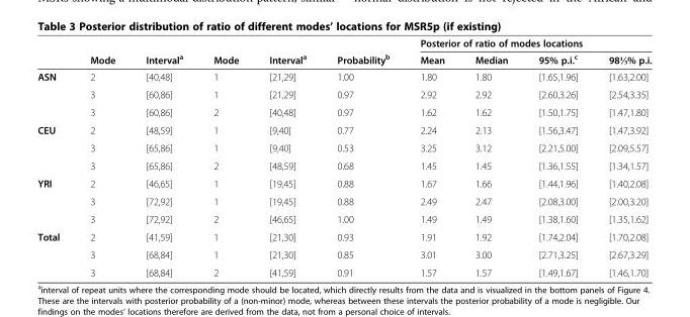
<table><thead><tr><td rowspan="2"></td><td rowspan="2">Mode</td><td rowspan="2">Interval<sup>a</sup></td><td rowspan="2">Mode</td><td rowspan="2">Interval<sup>a</sup></td><td rowspan="2">Probability<sup>b</sup></td><td colspan="4">Posterior of ratio of modes locations</td></tr><tr><td>Mean</td><td>Median</td><td>95% p.i.<sup>c</sup></td><td>98⅓% p.i.</td></tr></thead><tbody><tr><td rowspan="3">ASN</td><td>2</td><td>[40,48]</td><td>1</td><td>[21,29]</td><td>1.00</td><td>1.80</td><td>1.80</td><td>[1.65,1.96]</td><td>[1.63,2.00]</td></tr><tr><td>3</td><td>[60,86]</td><td>1</td><td>[21,29]</td><td>0.97</td><td>2.92</td><td>2.92</td><td>[2.60,3.26]</td><td>[2.54,3.35]</td></tr><tr><td>3</td><td>[60,86]</td><td>2</td><td>[40,48]</td><td>0.97</td><td>1.62</td><td>1.62</td><td>[1.50,1.75]</td><td>[1.47,1.80]</td></tr><tr><td rowspan="3">CEU</td><td>2</td><td>[48,59]</td><td>1</td><td>[9,40]</td><td>0.77</td><td>2.24</td><td>2.13</td><td>[1.56,3.47]</td><td>[1.47,3.92]</td></tr><tr><td>3</td><td>[65,86]</td><td>1</td><td>[9,40]</td><td>0.53</td><td>3.25</td><td>3.12</td><td>[2.21,5.00]</td><td>[2.09,5.57]</td></tr><tr><td>3</td><td>[65,86]</td><td>2</td><td>[48,59]</td><td>0.68</td><td>1.45</td><td>1.45</td><td>[1.36,1.55]</td><td>[1.34,1.57]</td></tr><tr><td rowspan="3">YRI</td><td>2</td><td>[46,65]</td><td>1</td><td>[19,45]</td><td>0.88</td><td>1.67</td><td>1.66</td><td>[1.44,1.96]</td><td>[1.40,2.08]</td></tr><tr><td>3</td><td>[72,92]</td><td>1</td><td>[19,45]</td><td>0.88</td><td>2.49</td><td>2.47</td><td>[2.08,3.00]</td><td>[2.00,3.20]</td></tr><tr><td>3</td><td>[72,92]</td><td>2</td><td>[46,65]</td><td>1.00</td><td>1.49</td><td>1.49</td><td>[1.38,1.60]</td><td>[1.35,1.62]</td></tr><tr><td rowspan="3">Total</td><td>2</td><td>[41,59]</td><td>1</td><td>[21,30]</td><td>0.93</td><td>1.91</td><td>1.92</td><td>[1.74,2.04]</td><td>[1.70,2.08]</td></tr><tr><td>3</td><td>[68,84]</td><td>1</td><td>[21,30]</td><td>0.85</td><td>3.01</td><td>3.00</td><td>[2.71,3.25]</td><td>[2.67,3.29]</td></tr><tr><td>3</td><td>[68,84]</td><td>2</td><td>[41,59]</td><td>0.91</td><td>1.57</td><td>1.57</td><td>[1.49,1.67]</td><td>[1.46,1.70]</td></tr></tbody></table>